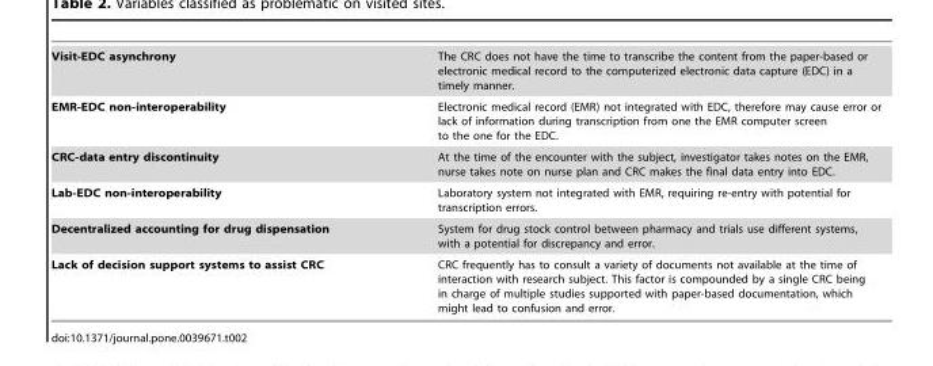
<table><tbody><tr><td>Visit-EDC asynchrony</td><td>The CRC does not have the time to transcribe the content from the paper-based or electronic medical record to the computerized electronic data capture (EDC) in a timely manner.</td></tr><tr><td>EMR-EDC non-interoperability</td><td>Electronic medical record (EMR) not integrated with EDC, therefore may cause error or lack of information during transcription from one the EMR computer screen to the one for the EDC.</td></tr><tr><td>CRC-data entry discontinuity</td><td>At the time of the encounter with the subject, investigator takes notes on the EMR, nurse takes note on nurse plan and CRC makes the final data entry into EDC.</td></tr><tr><td>Lab-EDC non-interoperability</td><td>Laboratory system not integrated with EMR, requiring re-entry with potential for transcription errors.</td></tr><tr><td>Decentralized accounting for drug dispensation</td><td>System for drug stock control between pharmacy and trials use different systems, with a potential for discrepancy and error.</td></tr><tr><td>Lack of decision support systems to assist CRC</td><td>CRC frequently has to consult a variety of documents not available at the time of interaction with research subject. This factor is compounded by a single CRC being in charge of multiple studies supported with paper-based documentation, which might lead to confusion and error.</td></tr></tbody></table>